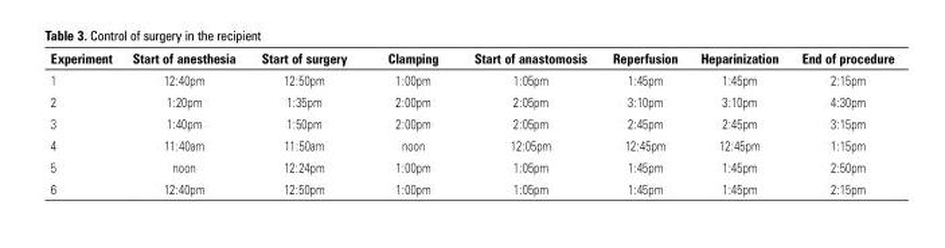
<table><thead><tr><td>Experiment</td><td>Start of anesthesia</td><td>Start of surgery</td><td>Clamping</td><td>Start of anastomosis</td><td>Reperfusion</td><td>Heparinization</td><td>End of procedure</td></tr></thead><tbody><tr><td>1</td><td>12:40pm</td><td>12:50pm</td><td>1:00pm</td><td>1:05pm</td><td>1:45pm</td><td>1:45pm</td><td>2:15pm</td></tr><tr><td>2</td><td>1:20pm</td><td>1:35pm</td><td>2:00pm</td><td>2:05pm</td><td>3:10pm</td><td>3:10pm</td><td>4:30pm</td></tr><tr><td>3</td><td>1:40pm</td><td>1:50pm</td><td>2:00pm</td><td>2:05pm</td><td>2:45pm</td><td>2:45pm</td><td>3:15pm</td></tr><tr><td>4</td><td>11:40am</td><td>11:50am</td><td>noon</td><td>12:05pm</td><td>12:45pm</td><td>12:45pm</td><td>1:15pm</td></tr><tr><td>5</td><td>noon</td><td>12:24pm</td><td>1:00pm</td><td>1:05pm</td><td>1:45pm</td><td>1:45pm</td><td>2:50pm</td></tr><tr><td>6</td><td>12:40pm</td><td>12:50pm</td><td>1:00pm</td><td>1:05pm</td><td>1:45pm</td><td>1:45pm</td><td>2:15pm</td></tr></tbody></table>